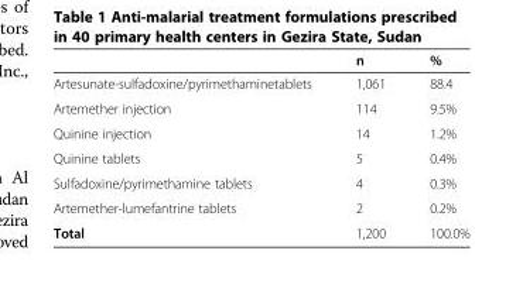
<table><thead><tr><td></td><td>n</td><td>%</td></tr></thead><tbody><tr><td>Artesunate-sulfadoxine/pyrimethaminetablets</td><td>1,061</td><td>88.4</td></tr><tr><td>Artemether injection</td><td>114</td><td>9.5%</td></tr><tr><td>Quinine injection</td><td>14</td><td>1.2%</td></tr><tr><td>Quinine tablets</td><td>5</td><td>0.4%</td></tr><tr><td>Sulfadoxine/pyrimethamine tablets</td><td>4</td><td>0.3%</td></tr><tr><td>Artemether-lumefantrine tablets</td><td>2</td><td>0.2%</td></tr><tr><td>Total</td><td>1,200</td><td>100.0%</td></tr></tbody></table>